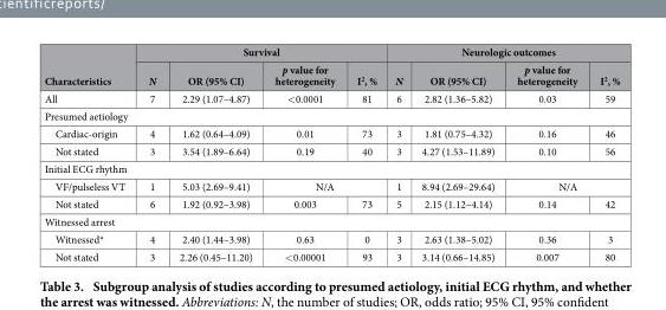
<table><thead><tr><td rowspan="2">Characteristics</td><td colspan="4">Survival</td><td colspan="4">Neurologic outcomes</td></tr><tr><td>N</td><td>OR (95% CI)</td><td>p value for heterogeneity</td><td>I<sup>2</sup>, %</td><td>N</td><td>OR (95% CI)</td><td>p value for heterogeneity</td><td>I<sup>2</sup>, %</td></tr></thead><tbody><tr><td>All</td><td>7</td><td>2.29 (1.07–4.87)</td><td>&lt; 0.0001</td><td>81</td><td>6</td><td>2.82 (1.36–5.82)</td><td>0.03</td><td>59</td></tr><tr><td colspan="9">Presumed aetiology</td></tr><tr><td>Cardiac-origin</td><td>4</td><td>1.62 (0.64–4.09)</td><td>0.01</td><td>73</td><td>3</td><td>1.81 (0.75–4.32)</td><td>0.16</td><td>46</td></tr><tr><td>Not stated</td><td>3</td><td>3.54 (1.89–6.64)</td><td>0.19</td><td>40</td><td>3</td><td>4.27 (1.53–11.89)</td><td>0.10</td><td>56</td></tr><tr><td colspan="9">Initial ECG rhythm</td></tr><tr><td>VF/pulseless VT</td><td>1</td><td>5.03 (2.69–9.41)</td><td colspan="2">N/A</td><td>1</td><td>8.94 (2.69–29.64)</td><td colspan="2">N/A</td></tr><tr><td>Not stated</td><td>6</td><td>1.92 (0.92–3.98)</td><td>0.003</td><td>73</td><td>5</td><td>2.15 (1.12–4.14)</td><td>0.14</td><td>42</td></tr><tr><td colspan="9">Witnessed arrest</td></tr><tr><td>Witnessed*</td><td>4</td><td>2.40 (1.44–3.98)</td><td>0.63</td><td>0</td><td>3</td><td>2.63 (1.38–5.02)</td><td>0.36</td><td>3</td></tr><tr><td>Not stated</td><td>3</td><td>2.26 (0.45–11.20)</td><td>&lt; 0.00001</td><td>93</td><td>3</td><td>3.14 (0.66–14.85)</td><td>0.007</td><td>80</td></tr></tbody></table>